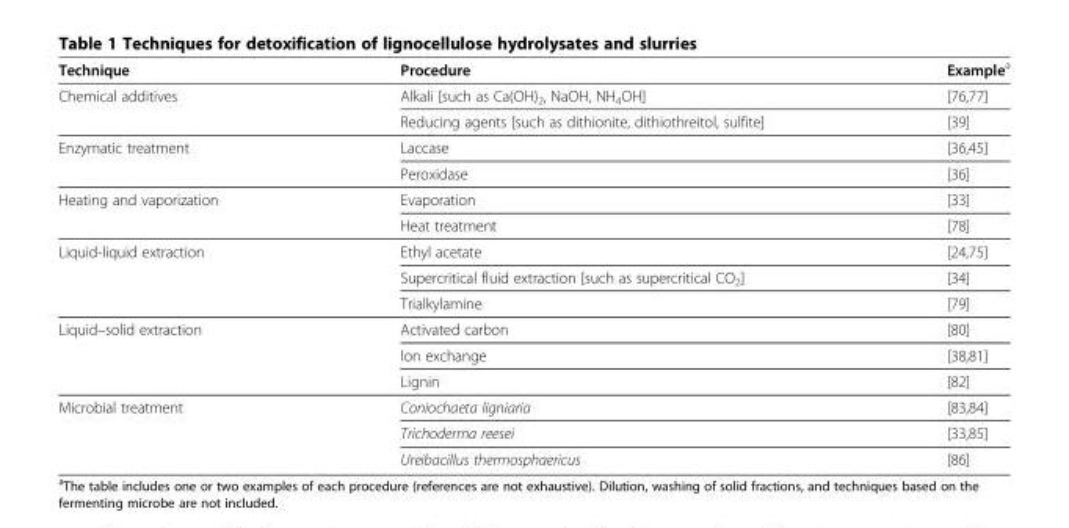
<table><thead><tr><td>Technique</td><td>Procedure</td><td>Example<sup>a</sup></td></tr></thead><tbody><tr><td rowspan="2">Chemical additives</td><td>Alkali [such as Ca(OH)<sub>2</sub>, NaOH, NH<sub>4</sub>OH]</td><td>[76,77]</td></tr><tr><td>Reducing agents [such as dithionite, dithiothreitol, sulfite]</td><td>[39]</td></tr><tr><td rowspan="2">Enzymatic treatment</td><td>Laccase</td><td>[36,45]</td></tr><tr><td>Peroxidase</td><td>[36]</td></tr><tr><td rowspan="2">Heating and vaporization</td><td>Evaporation</td><td>[33]</td></tr><tr><td>Heat treatment</td><td>[78]</td></tr><tr><td rowspan="3">Liquid-liquid extraction</td><td>Ethyl acetate</td><td>[24,75]</td></tr><tr><td>Supercritical fluid extraction [such as supercritical CO<sub>2</sub>]</td><td>[34]</td></tr><tr><td>Trialkylamine</td><td>[79]</td></tr><tr><td rowspan="3">Liquid–solid extraction</td><td>Activated carbon</td><td>[80]</td></tr><tr><td>Ion exchange</td><td>[38,81]</td></tr><tr><td>Lignin</td><td>[82]</td></tr><tr><td rowspan="3">Microbial treatment</td><td>Coniochaeta ligniaria</td><td>[83,84]</td></tr><tr><td>Trichoderma reesei</td><td>[33,85]</td></tr><tr><td>Ureibacillus thermosphaericus</td><td>[86]</td></tr></tbody></table>